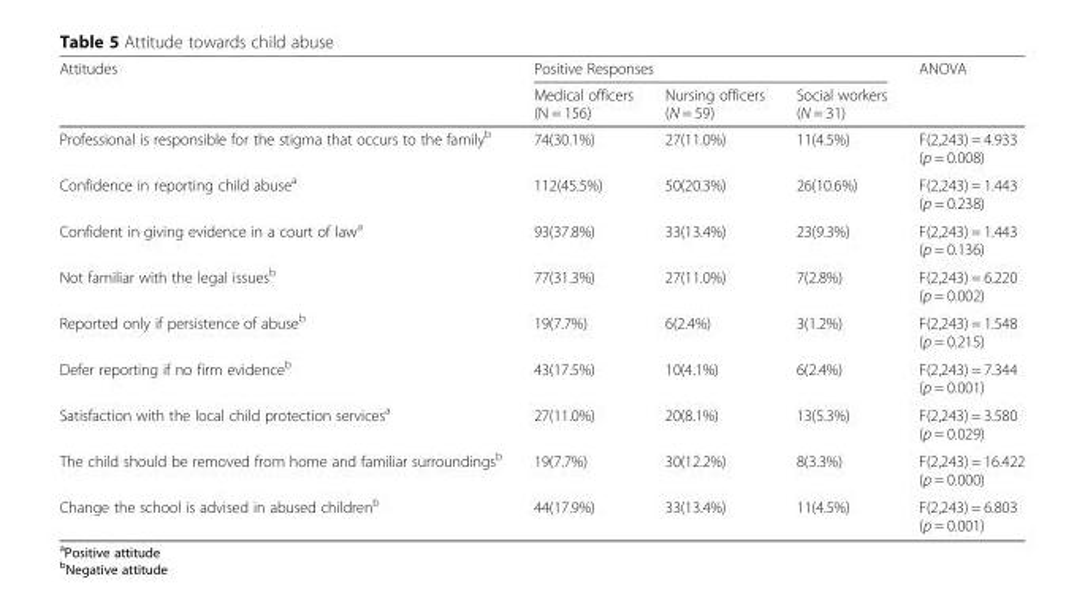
<table><thead><tr><td rowspan="2">Attitudes</td><td colspan="3">Positive Responses</td><td rowspan="2">ANOVA</td></tr><tr><td>Medical officers (N = 156)</td><td>Nursing officers (N = 59)</td><td>Social workers (N = 31)</td></tr></thead><tbody><tr><td>Professional is responsible for the stigma that occurs to the family<sup>b</sup></td><td>74(30.1%)</td><td>27(11.0%)</td><td>11(4.5%)</td><td>F(2,243) = 4.933 (p = 0.008)</td></tr><tr><td>Confidence in reporting child abuse<sup>a</sup></td><td>112(45.5%)</td><td>50(20.3%)</td><td>26(10.6%)</td><td>F(2,243) = 1.443 (p = 0.238)</td></tr><tr><td>Confident in giving evidence in a court of law<sup>a</sup></td><td>93(37.8%)</td><td>33(13.4%)</td><td>23(9.3%)</td><td>F(2,243) = 1.443 (p = 0.136)</td></tr><tr><td>Not familiar with the legal issues<sup>b</sup></td><td>77(31.3%)</td><td>27(11.0%)</td><td>7(2.8%)</td><td>F(2,243) = 6.220 (p = 0.002)</td></tr><tr><td>Reported only if persistence of abuse<sup>b</sup></td><td>19(7.7%)</td><td>6(2.4%)</td><td>3(1.2%)</td><td>F(2,243) = 1.548 (p = 0.215)</td></tr><tr><td>Defer reporting if no firm evidence<sup>b</sup></td><td>43(17.5%)</td><td>10(4.1%)</td><td>6(2.4%)</td><td>F(2,243) = 7.344 (p = 0.001)</td></tr><tr><td>Satisfaction with the local child protection services<sup>a</sup></td><td>27(11.0%)</td><td>20(8.1%)</td><td>13(5.3%)</td><td>F(2,243) = 3.580 (p = 0.029)</td></tr><tr><td>The child should be removed from home and familiar surroundings<sup>b</sup></td><td>19(7.7%)</td><td>30(12.2%)</td><td>8(3.3%)</td><td>F(2,243) = 16.422 (p = 0.000)</td></tr><tr><td>Change the school is advised in abused children<sup>b</sup></td><td>44(17.9%)</td><td>33(13.4%)</td><td>11(4.5%)</td><td>F(2,243) = 6.803 (p = 0.001)</td></tr></tbody></table>